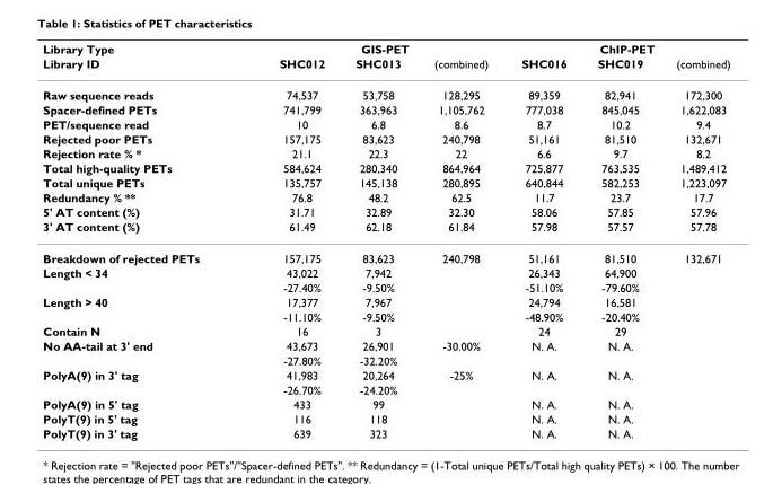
<table><thead><tr><td rowspan="2">Library Type Library ID</td><td colspan="3">GIS-PET</td><td colspan="3">ChIP-PET</td></tr><tr><td>SHC012</td><td>SHC013</td><td>(combined)</td><td>SHC016</td><td>SHC019</td><td>(combined)</td></tr></thead><tbody><tr><td>Raw sequence reads</td><td>74,537</td><td>53,758</td><td>128,295</td><td>89,359</td><td>82,941</td><td>172,300</td></tr><tr><td>Spacer-defined PETs</td><td>741,799</td><td>363,963</td><td>1,105,762</td><td>777,038</td><td>845,045</td><td>1,622,083</td></tr><tr><td>PET/sequence read</td><td>10</td><td>6.8</td><td>8.6</td><td>8.7</td><td>10.2</td><td>9.4</td></tr><tr><td>Rejected poor PETs</td><td>157,175</td><td>83,623</td><td>240,798</td><td>51,161</td><td>81,510</td><td>132,671</td></tr><tr><td>Rejection rate % *</td><td>21.1</td><td>22.3</td><td>22</td><td>6.6</td><td>9.7</td><td>8.2</td></tr><tr><td>Total high-quality PETs</td><td>584,624</td><td>280,340</td><td>864,964</td><td>725,877</td><td>763,535</td><td>1,489,412</td></tr><tr><td>Total unique PETs</td><td>135,757</td><td>145,138</td><td>280,895</td><td>640,844</td><td>582,253</td><td>1,223,097</td></tr><tr><td>Redundancy % **</td><td>76.8</td><td>48.2</td><td>62.5</td><td>11.7</td><td>23.7</td><td>17.7</td></tr><tr><td>5&#x27; AT content (%)</td><td>31.71</td><td>32.89</td><td>32.30</td><td>58.06</td><td>57.85</td><td>57.96</td></tr><tr><td>3&#x27; AT content (%)</td><td>61.49</td><td>62.18</td><td>61.84</td><td>57.98</td><td>57.57</td><td>57.78</td></tr><tr><td>Breakdown of rejected PETs</td><td>157,175</td><td>83,623</td><td>240,798</td><td>51,161</td><td>81,510</td><td>132,671</td></tr><tr><td rowspan="2">Length &lt; 34</td><td>43,022</td><td>7,942</td><td></td><td>26,343</td><td>64,900</td><td></td></tr><tr><td>-27.40%</td><td>-9.50%</td><td></td><td>-51.10%</td><td>-79.60%</td><td></td></tr><tr><td rowspan="2">Length &gt; 40</td><td>17,377</td><td>7,967</td><td></td><td>24,794</td><td>16,581</td><td></td></tr><tr><td>-11.10%</td><td>-9.50%</td><td></td><td>-48.90%</td><td>-20.40%</td><td></td></tr><tr><td>Contain N</td><td>16</td><td>3</td><td></td><td>24</td><td>29</td><td></td></tr><tr><td rowspan="2">No AA-tail at 3&#x27; end</td><td>43,673</td><td>26,901</td><td>-30.00%</td><td>N. A.</td><td>N. A.</td><td></td></tr><tr><td>-27.80%</td><td>-32.20%</td><td></td><td></td><td></td><td></td></tr><tr><td rowspan="2">PolyA(9) in 3&#x27; tag</td><td>41,983</td><td>20,264</td><td>-25%</td><td>N. A.</td><td>N. A.</td><td></td></tr><tr><td>-26.70%</td><td>-24.20%</td><td></td><td></td><td></td><td></td></tr><tr><td>PolyA(9) in 5&#x27; tag</td><td>433</td><td>99</td><td></td><td>N. A.</td><td>N. A.</td><td></td></tr><tr><td>PolyT(9) in 5&#x27; tag</td><td>116</td><td>118</td><td></td><td>N. A.</td><td>N. A.</td><td></td></tr><tr><td>PolyT(9) in 3&#x27; tag</td><td>639</td><td>323</td><td></td><td>N. A.</td><td>N. A.</td><td></td></tr></tbody></table>